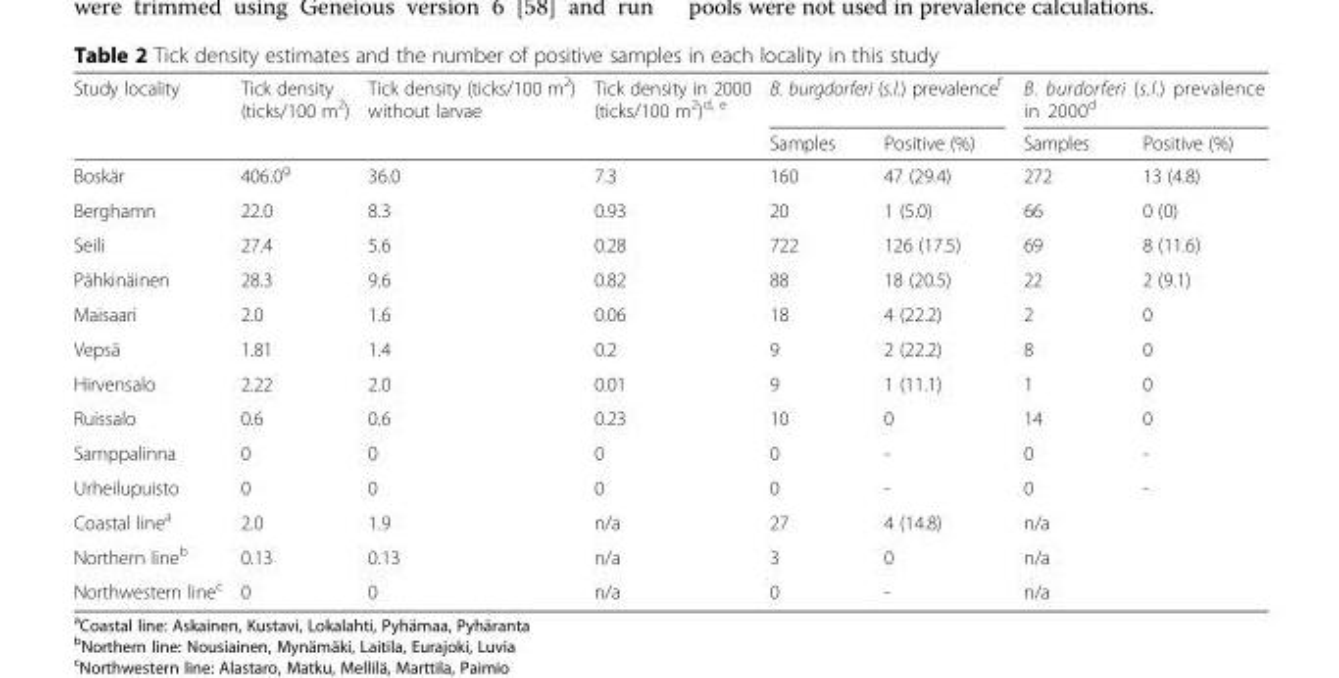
<table><thead><tr><td rowspan="2">Study locality</td><td rowspan="2">Tick density (ticks/100 m<sup>2</sup>)</td><td rowspan="2">Tick density (ticks/100 m<sup>2</sup>) without larvae</td><td rowspan="2">Tick density in 2000 (ticks/100 m<sup>2</sup>)<sup>d, e</sup></td><td colspan="2">B. burgdorferi (s.l.) prevalence<sup>f</sup></td><td colspan="2">B. burdorferi (s.l.) prevalence in 2000<sup>d</sup></td></tr><tr><td>Samples</td><td>Positive (%)</td><td>Samples</td><td>Positive (%)</td></tr></thead><tbody><tr><td>Boskär</td><td>406.0<sup>g</sup></td><td>36.0</td><td>7.3</td><td>160</td><td>47 (29.4)</td><td>272</td><td>13 (4.8)</td></tr><tr><td>Berghamn</td><td>22.0</td><td>8.3</td><td>0.93</td><td>20</td><td>1 (5.0)</td><td>66</td><td>0 (0)</td></tr><tr><td>Seili</td><td>27.4</td><td>5.6</td><td>0.28</td><td>722</td><td>126 (17.5)</td><td>69</td><td>8 (11.6)</td></tr><tr><td>Pähkinäinen</td><td>28.3</td><td>9.6</td><td>0.82</td><td>88</td><td>18 (20.5)</td><td>22</td><td>2 (9.1)</td></tr><tr><td>Maisaari</td><td>2.0</td><td>1.6</td><td>0.06</td><td>18</td><td>4 (22.2)</td><td>2</td><td>0</td></tr><tr><td>Vepsä</td><td>1.81</td><td>1.4</td><td>0.2</td><td>9</td><td>2 (22.2)</td><td>8</td><td>0</td></tr><tr><td>Hirvensalo</td><td>2.22</td><td>2.0</td><td>0.01</td><td>9</td><td>1 (11.1)</td><td>1</td><td>0</td></tr><tr><td>Ruissalo</td><td>0.6</td><td>0.6</td><td>0.23</td><td>10</td><td>0</td><td>14</td><td>0</td></tr><tr><td>Samppalinna</td><td>0</td><td>0</td><td>0</td><td>0</td><td>-</td><td>0</td><td>-</td></tr><tr><td>Urheilupuisto</td><td>0</td><td>0</td><td>0</td><td>0</td><td>-</td><td>0</td><td>-</td></tr><tr><td>Coastal line<sup>a</sup></td><td>2.0</td><td>1.9</td><td>n/a</td><td>27</td><td>4 (14.8)</td><td colspan="2">n/a</td></tr><tr><td>Northern line<sup>b</sup></td><td>0.13</td><td>0.13</td><td>n/a</td><td>3</td><td>0</td><td colspan="2">n/a</td></tr><tr><td>Northwestern line<sup>c</sup></td><td>0</td><td>0</td><td>n/a</td><td>0</td><td>-</td><td colspan="2">n/a</td></tr></tbody></table>